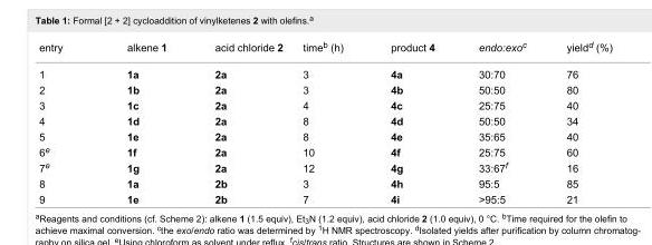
<table><tbody><tr><td>entry</td><td>alkene 1</td><td>acid chloride 2</td><td>time<sup>b</sup> (h)</td><td>product 4</td><td>endo:exo<sup>c</sup></td><td>yield<sup>d</sup> (%)</td></tr><tr><td>1</td><td>1a</td><td>2a</td><td>3</td><td>4a</td><td>30:70</td><td>76</td></tr><tr><td>2</td><td>1b</td><td>2a</td><td>3</td><td>4b</td><td>50:50</td><td>80</td></tr><tr><td>3</td><td>1c</td><td>2a</td><td>4</td><td>4c</td><td>25:75</td><td>40</td></tr><tr><td>4</td><td>1d</td><td>2a</td><td>8</td><td>4d</td><td>50:50</td><td>34</td></tr><tr><td>5</td><td>1e</td><td>2a</td><td>8</td><td>4e</td><td>35:65</td><td>40</td></tr><tr><td>6<sup>e</sup></td><td>1f</td><td>2a</td><td>10</td><td>4f</td><td>25:75</td><td>60</td></tr><tr><td>7<sup>e</sup></td><td>1g</td><td>2a</td><td>12</td><td>4g</td><td>33:67<sup>f</sup></td><td>16</td></tr><tr><td>8</td><td>1a</td><td>2b</td><td>3</td><td>4h</td><td>95:5</td><td>85</td></tr><tr><td>9</td><td>1e</td><td>2b</td><td>7</td><td>4i</td><td>&gt;95:5</td><td>21</td></tr></tbody></table>